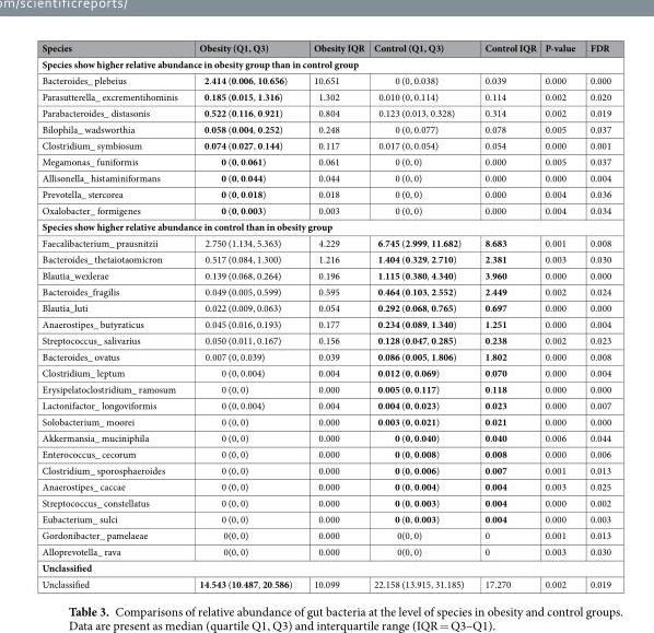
<table><thead><tr><td>Species</td><td>Obesity (Q1, Q3)</td><td>Obesity IQR</td><td>Control (Q1, Q3)</td><td>Control IQR</td><td>P-value</td><td>FDR</td></tr></thead><tbody><tr><td colspan="7">Species show higher relative abundance in obesity group than in control group</td></tr><tr><td>Bacteroides_ plebeius</td><td>2.414 (0.006, 10.656)</td><td>10.651</td><td>0 (0, 0.038)</td><td>0.039</td><td>0.000</td><td>0.000</td></tr><tr><td>Parasutterella_ excrementihominis</td><td>0.185 (0.015, 1.316)</td><td>1.302</td><td>0.010 (0, 0.114)</td><td>0.114</td><td>0.002</td><td>0.020</td></tr><tr><td>Parabacteroides_ distasonis</td><td>0.522 (0.116, 0.921)</td><td>0.804</td><td>0.123 (0.013, 0.328)</td><td>0.314</td><td>0.002</td><td>0.019</td></tr><tr><td>Bilophila_ wadsworthia</td><td>0.058 (0.004, 0.252)</td><td>0.248</td><td>0 (0, 0.077)</td><td>0.078</td><td>0.005</td><td>0.037</td></tr><tr><td>Clostridium_ symbiosum</td><td>0.074 (0.027, 0.144)</td><td>0.117</td><td>0.017 (0, 0.054)</td><td>0.054</td><td>0.000</td><td>0.001</td></tr><tr><td>Megamonas_ funiformis</td><td>0 (0, 0.061)</td><td>0.061</td><td>0 (0, 0)</td><td>0.000</td><td>0.005</td><td>0.037</td></tr><tr><td>Allisonella_ histaminiformans</td><td>0 (0, 0.044)</td><td>0.044</td><td>0 (0, 0)</td><td>0.000</td><td>0.000</td><td>0.004</td></tr><tr><td>Prevotella_ stercorea</td><td>0 (0, 0.018)</td><td>0.018</td><td>0 (0, 0)</td><td>0.000</td><td>0.004</td><td>0.036</td></tr><tr><td>Oxalobacter_ formigenes</td><td>0 (0, 0.003)</td><td>0.003</td><td>0 (0, 0)</td><td>0.000</td><td>0.004</td><td>0.034</td></tr><tr><td colspan="7">Species show higher relative abundance in control than in obesity group</td></tr><tr><td>Faecalibacterium_ prausnitzii</td><td>2.750 (1.134, 5.363)</td><td>4.229</td><td>6.745 (2.999, 11.682)</td><td>8.683</td><td>0.001</td><td>0.008</td></tr><tr><td>Bacteroides_ thetaiotaomicron</td><td>0.517 (0.084, 1.300)</td><td>1.216</td><td>1.404 (0.329, 2.710)</td><td>2.381</td><td>0.003</td><td>0.030</td></tr><tr><td>Blautia_wexlerae</td><td>0.139 (0.068, 0.264)</td><td>0.196</td><td>1.115 (0.380, 4.340)</td><td>3.960</td><td>0.000</td><td>0.000</td></tr><tr><td>Bacteroides_fragilis</td><td>0.049 (0.005, 0.599)</td><td>0.595</td><td>0.464 (0.103, 2.552)</td><td>2.449</td><td>0.002</td><td>0.024</td></tr><tr><td>Blautia_luti</td><td>0.022 (0.009, 0.063)</td><td>0.054</td><td>0.292 (0.068, 0.765)</td><td>0.697</td><td>0.000</td><td>0.000</td></tr><tr><td>Anaerostipes_ butyraticus</td><td>0.045 (0.016, 0.193)</td><td>0.177</td><td>0.234 (0.089, 1.340)</td><td>1.251</td><td>0.000</td><td>0.004</td></tr><tr><td>Streptococcus_ salivarius</td><td>0.050 (0.011, 0.167)</td><td>0.156</td><td>0.128 (0.047, 0.285)</td><td>0.238</td><td>0.002</td><td>0.023</td></tr><tr><td>Bacteroides_ ovatus</td><td>0.007 (0, 0.039)</td><td>0.039</td><td>0.086 (0.005, 1.806)</td><td>1.802</td><td>0.000</td><td>0.008</td></tr><tr><td>Clostridium_ leptum</td><td>0 (0, 0.004)</td><td>0.004</td><td>0.012 (0, 0.069)</td><td>0.070</td><td>0.000</td><td>0.004</td></tr><tr><td>Erysipelatoclostridium_ ramosum</td><td>0 (0, 0)</td><td>0.000</td><td>0.005 (0, 0.117)</td><td>0.118</td><td>0.000</td><td>0.000</td></tr><tr><td>Lactonifactor_ longoviformis</td><td>0 (0, 0.004)</td><td>0.004</td><td>0.004 (0, 0.023)</td><td>0.023</td><td>0.000</td><td>0.007</td></tr><tr><td>Solobacterium_ moorei</td><td>0 (0, 0)</td><td>0.000</td><td>0.003 (0, 0.021)</td><td>0.021</td><td>0.000</td><td>0.000</td></tr><tr><td>Akkermansia_ muciniphila</td><td>0 (0, 0)</td><td>0.000</td><td>0 (0, 0.040)</td><td>0.040</td><td>0.006</td><td>0.044</td></tr><tr><td>Enterococcus_ cecorum</td><td>0 (0, 0)</td><td>0.000</td><td>0 (0, 0.008)</td><td>0.008</td><td>0.000</td><td>0.006</td></tr><tr><td>Clostridium_ sporosphaeroides</td><td>0 (0, 0)</td><td>0.000</td><td>0 (0, 0.006)</td><td>0.007</td><td>0.001</td><td>0.013</td></tr><tr><td>Anaerostipes_ caccae</td><td>0 (0, 0)</td><td>0.000</td><td>0 (0, 0.004)</td><td>0.004</td><td>0.003</td><td>0.025</td></tr><tr><td>Streptococcus_ constellatus</td><td>0 (0, 0)</td><td>0.000</td><td>0 (0, 0.003)</td><td>0.004</td><td>0.000</td><td>0.002</td></tr><tr><td>Eubacterium_ sulci</td><td>0 (0, 0)</td><td>0.000</td><td>0 (0, 0.003)</td><td>0.004</td><td>0.000</td><td>0.003</td></tr><tr><td>Gordonibacter_ pamelaeae</td><td>0(0, 0)</td><td>0.000</td><td>0(0, 0)</td><td>0</td><td>0.001</td><td>0.013</td></tr><tr><td>Alloprevotella_ rava</td><td>0(0, 0)</td><td>0.000</td><td>0(0, 0)</td><td>0</td><td>0.003</td><td>0.030</td></tr><tr><td colspan="7">Unclassified</td></tr><tr><td>Unclassified</td><td>14.543 (10.487, 20.586)</td><td>10.099</td><td>22.158 (13.915, 31.185)</td><td>17.270</td><td>0.002</td><td>0.019</td></tr></tbody></table>